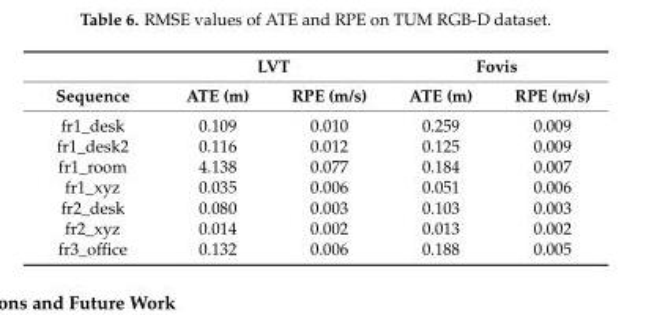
<table><thead><tr><td rowspan="2">Sequence</td><td colspan="2">LVT</td><td colspan="2">Fovis</td></tr><tr><td>ATE (m)</td><td>RPE (m/s)</td><td>ATE (m)</td><td>RPE (m/s)</td></tr></thead><tbody><tr><td>fr1_desk</td><td>0.109</td><td>0.010</td><td>0.259</td><td>0.009</td></tr><tr><td>fr1_desk2</td><td>0.116</td><td>0.012</td><td>0.125</td><td>0.009</td></tr><tr><td>fr1_room</td><td>4.138</td><td>0.077</td><td>0.184</td><td>0.007</td></tr><tr><td>fr1_xyz</td><td>0.035</td><td>0.006</td><td>0.051</td><td>0.006</td></tr><tr><td>fr2_desk</td><td>0.080</td><td>0.003</td><td>0.103</td><td>0.003</td></tr><tr><td>fr2_xyz</td><td>0.014</td><td>0.002</td><td>0.013</td><td>0.002</td></tr><tr><td>fr3_office</td><td>0.132</td><td>0.006</td><td>0.188</td><td>0.005</td></tr></tbody></table>